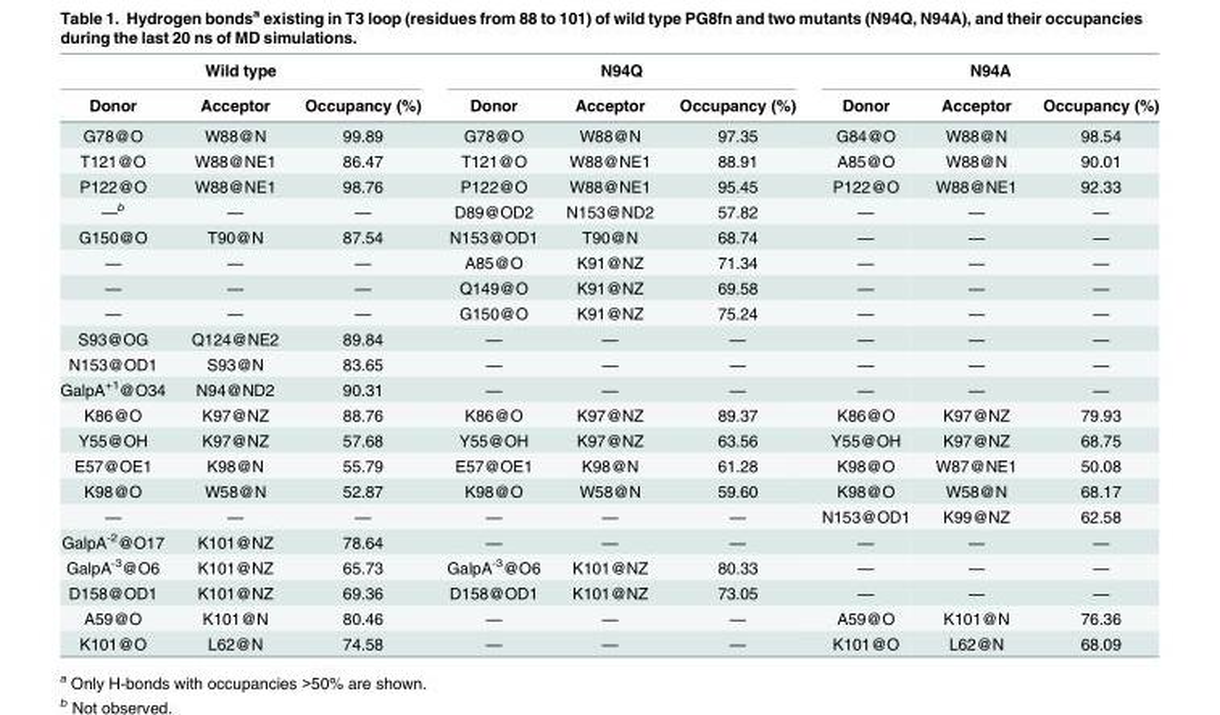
<table><thead><tr><td colspan="3">Wild type</td><td colspan="3">N94Q</td><td colspan="3">N94A</td></tr><tr><td>Donor</td><td>Acceptor</td><td>Occupancy (%)</td><td>Donor</td><td>Acceptor</td><td>Occupancy (%)</td><td>Donor</td><td>Acceptor</td><td>Occupancy (%)</td></tr></thead><tbody><tr><td>G78@O</td><td>W88@N</td><td>99.89</td><td>G78@O</td><td>W88@N</td><td>97.35</td><td>G84@O</td><td>W88@N</td><td>98.54</td></tr><tr><td>T121@O</td><td>W88@NE1</td><td>86.47</td><td>T121@O</td><td>W88@NE1</td><td>88.91</td><td>A85@O</td><td>W88@N</td><td>90.01</td></tr><tr><td>P122@O</td><td>W88@NE1</td><td>98.76</td><td>P122@O</td><td>W88@NE1</td><td>95.45</td><td>P122@O</td><td>W88@NE1</td><td>92.33</td></tr><tr><td>—<sup>b</sup></td><td>—</td><td>—</td><td>D89@OD2</td><td>N153@ND2</td><td>57.82</td><td>—</td><td>—</td><td>—</td></tr><tr><td>G150@O</td><td>T90@N</td><td>87.54</td><td>N153@OD1</td><td>T90@N</td><td>68.74</td><td>—</td><td>—</td><td>—</td></tr><tr><td>—</td><td>—</td><td>—</td><td>A85@O</td><td>K91@NZ</td><td>71.34</td><td>—</td><td>—</td><td>—</td></tr><tr><td>—</td><td>—</td><td>—</td><td>Q149@O</td><td>K91@NZ</td><td>69.58</td><td>—</td><td>—</td><td>—</td></tr><tr><td>—</td><td>—</td><td>—</td><td>G150@O</td><td>K91@NZ</td><td>75.24</td><td>—</td><td>—</td><td>—</td></tr><tr><td>S93@OG</td><td>Q124@NE2</td><td>89.84</td><td>—</td><td>—</td><td>—</td><td>—</td><td>—</td><td>—</td></tr><tr><td>N153@OD1</td><td>S93@N</td><td>83.65</td><td>—</td><td>—</td><td>—</td><td>—</td><td>—</td><td>—</td></tr><tr><td>GalpA<sup>+1</sup>@O34</td><td>N94@ND2</td><td>90.31</td><td>—</td><td>—</td><td>—</td><td>—</td><td>—</td><td>—</td></tr><tr><td>K86@O</td><td>K97@NZ</td><td>88.76</td><td>K86@O</td><td>K97@NZ</td><td>89.37</td><td>K86@O</td><td>K97@NZ</td><td>79.93</td></tr><tr><td>Y55@OH</td><td>K97@NZ</td><td>57.68</td><td>Y55@OH</td><td>K97@NZ</td><td>63.56</td><td>Y55@OH</td><td>K97@NZ</td><td>68.75</td></tr><tr><td>E57@OE1</td><td>K98@N</td><td>55.79</td><td>E57@OE1</td><td>K98@N</td><td>61.28</td><td>K98@O</td><td>W87@NE1</td><td>50.08</td></tr><tr><td>K98@O</td><td>W58@N</td><td>52.87</td><td>K98@O</td><td>W58@N</td><td>59.60</td><td>K98@O</td><td>W58@N</td><td>68.17</td></tr><tr><td>—</td><td>—</td><td>—</td><td>—</td><td>—</td><td>—</td><td>N153@OD1</td><td>K99@NZ</td><td>62.58</td></tr><tr><td>GalpA<sup>-2</sup>@O17</td><td>K101@NZ</td><td>78.64</td><td>—</td><td>—</td><td>—</td><td>—</td><td>—</td><td>—</td></tr><tr><td>GalpA<sup>-3</sup>@O6</td><td>K101@NZ</td><td>65.73</td><td>GalpA<sup>-3</sup>@O6</td><td>K101@NZ</td><td>80.33</td><td>—</td><td>—</td><td>—</td></tr><tr><td>D158@OD1</td><td>K101@NZ</td><td>69.36</td><td>D158@OD1</td><td>K101@NZ</td><td>73.05</td><td>—</td><td>—</td><td>—</td></tr><tr><td>A59@O</td><td>K101@N</td><td>80.46</td><td>—</td><td>—</td><td>—</td><td>A59@O</td><td>K101@N</td><td>76.36</td></tr><tr><td>K101@O</td><td>L62@N</td><td>74.58</td><td>—</td><td>—</td><td>—</td><td>K101@O</td><td>L62@N</td><td>68.09</td></tr></tbody></table>